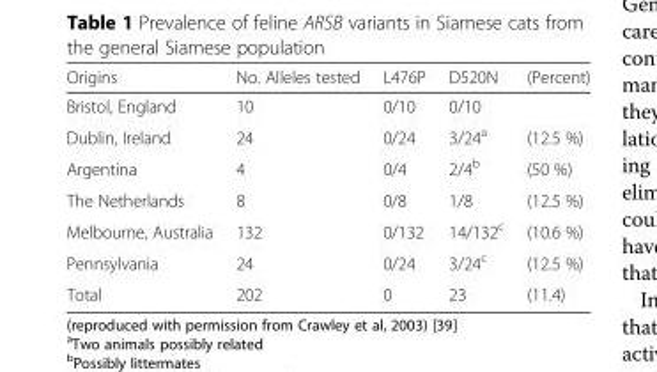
<table><thead><tr><td>Origins</td><td>No. Alleles tested</td><td>L476P</td><td>D520N</td><td>(Percent)</td></tr></thead><tbody><tr><td>Bristol, England</td><td>10</td><td>0/10</td><td>0/10</td><td></td></tr><tr><td>Dublin, Ireland</td><td>24</td><td>0/24</td><td>3/24<sup>a</sup></td><td>(12.5 %)</td></tr><tr><td>Argentina</td><td>4</td><td>0/4</td><td>2/4<sup>b</sup></td><td>(50 %)</td></tr><tr><td>The Netherlands</td><td>8</td><td>0/8</td><td>1/8</td><td>(12.5 %)</td></tr><tr><td>Melbourne, Australia</td><td>132</td><td>0/132</td><td>14/132<sup>c</sup></td><td>(10.6 %)</td></tr><tr><td>Pennsylvania</td><td>24</td><td>0/24</td><td>3/24<sup>c</sup></td><td>(12.5 %)</td></tr><tr><td>Total</td><td>202</td><td>0</td><td>23</td><td>(11.4)</td></tr></tbody></table>